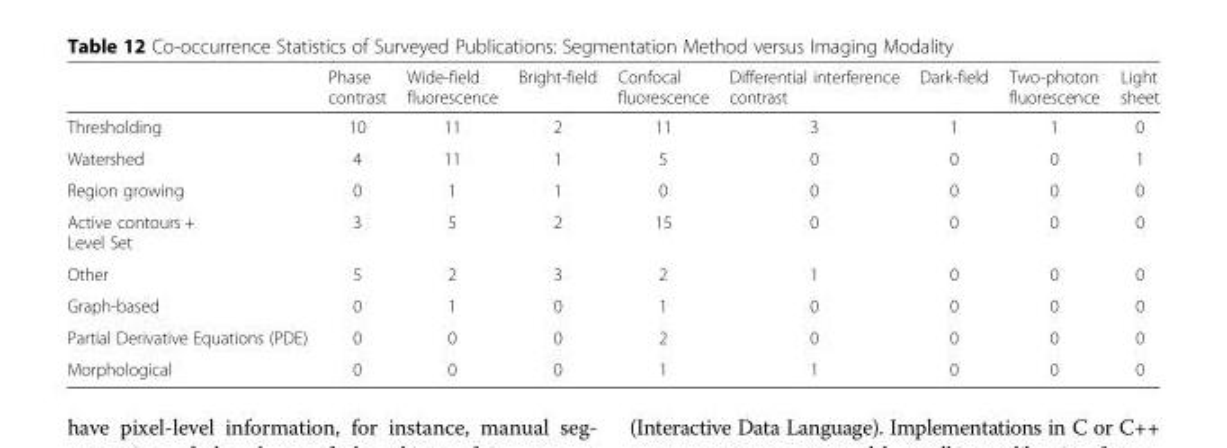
<table><thead><tr><td></td><td>Phase contrast</td><td>Wide-field fluorescence</td><td>Bright-field</td><td>Confocal fluorescence</td><td>Differential interference contrast</td><td>Dark-field</td><td>Two-photon fluorescence</td><td>Light sheet</td></tr></thead><tbody><tr><td>Thresholding</td><td>10</td><td>11</td><td>2</td><td>11</td><td>3</td><td>1</td><td>1</td><td>0</td></tr><tr><td>Watershed</td><td>4</td><td>11</td><td>1</td><td>5</td><td>0</td><td>0</td><td>0</td><td>1</td></tr><tr><td>Region growing</td><td>0</td><td>1</td><td>1</td><td>0</td><td>0</td><td>0</td><td>0</td><td>0</td></tr><tr><td>Active contours + Level Set</td><td>3</td><td>5</td><td>2</td><td>15</td><td>0</td><td>0</td><td>0</td><td>0</td></tr><tr><td>Other</td><td>5</td><td>2</td><td>3</td><td>2</td><td>1</td><td>0</td><td>0</td><td>0</td></tr><tr><td>Graph-based</td><td>0</td><td>1</td><td>0</td><td>1</td><td>0</td><td>0</td><td>0</td><td>0</td></tr><tr><td>Partial Derivative Equations (PDE)</td><td>0</td><td>0</td><td>0</td><td>2</td><td>0</td><td>0</td><td>0</td><td>0</td></tr><tr><td>Morphological</td><td>0</td><td>0</td><td>0</td><td>1</td><td>1</td><td>0</td><td>0</td><td>0</td></tr></tbody></table>